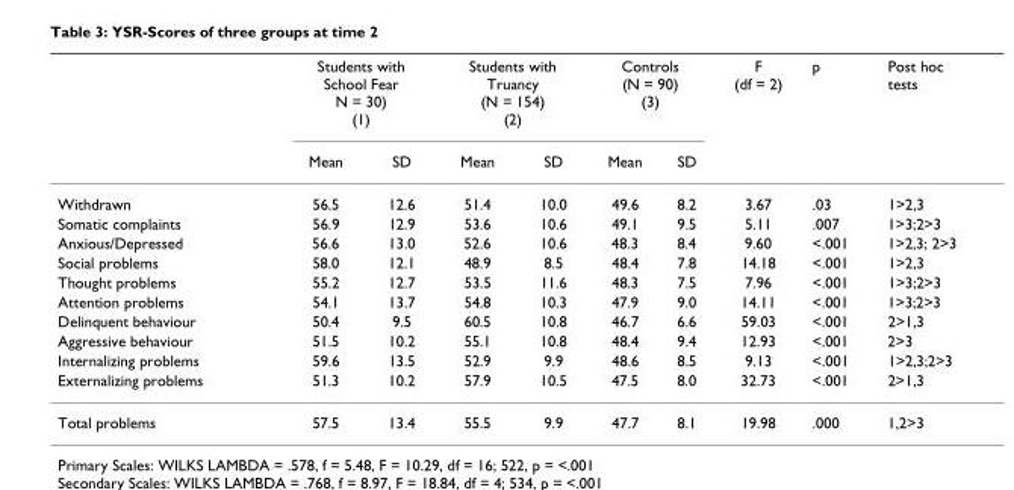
<table><thead><tr><td rowspan="2"></td><td colspan="2">Students with School Fear N = 30) (1)</td><td colspan="2">Students with Truancy (N = 154) (2)</td><td colspan="2">Controls (N = 90) (3)</td><td rowspan="2">F (df = 2)</td><td rowspan="2">p</td><td rowspan="2">Post hoc tests</td></tr><tr><td>Mean</td><td>SD</td><td>Mean</td><td>SD</td><td>Mean</td><td>SD</td></tr></thead><tbody><tr><td>Withdrawn</td><td>56.5</td><td>12.6</td><td>51.4</td><td>10.0</td><td>49.6</td><td>8.2</td><td>3.67</td><td>.03</td><td>1&gt;2,3</td></tr><tr><td>Somatic complaints</td><td>56.9</td><td>12.9</td><td>53.6</td><td>10.6</td><td>49.1</td><td>9.5</td><td>5.11</td><td>.007</td><td>1&gt;3;2&gt;3</td></tr><tr><td>Anxious/Depressed</td><td>56.6</td><td>13.0</td><td>52.6</td><td>10.6</td><td>48.3</td><td>8.4</td><td>9.60</td><td>&lt;.001</td><td>1&gt;2,3; 2&gt;3</td></tr><tr><td>Social problems</td><td>58.0</td><td>12.1</td><td>48.9</td><td>8.5</td><td>48.4</td><td>7.8</td><td>14.18</td><td>&lt;.001</td><td>1&gt;2,3</td></tr><tr><td>Thought problems</td><td>55.2</td><td>12.7</td><td>53.5</td><td>11.6</td><td>48.3</td><td>7.5</td><td>7.96</td><td>&lt;.001</td><td>1&gt;3;2&gt;3</td></tr><tr><td>Attention problems</td><td>54.1</td><td>13.7</td><td>54.8</td><td>10.3</td><td>47.9</td><td>9.0</td><td>14.11</td><td>&lt;.001</td><td>1&gt;3;2&gt;3</td></tr><tr><td>Delinquent behaviour</td><td>50.4</td><td>9.5</td><td>60.5</td><td>10.8</td><td>46.7</td><td>6.6</td><td>59.03</td><td>&lt;.001</td><td>2&gt;1,3</td></tr><tr><td>Aggressive behaviour</td><td>51.5</td><td>10.2</td><td>55.1</td><td>10.8</td><td>48.4</td><td>9.4</td><td>12.93</td><td>&lt;.001</td><td>2&gt;3</td></tr><tr><td>Internalizing problems</td><td>59.6</td><td>13.5</td><td>52.9</td><td>9.9</td><td>48.6</td><td>8.5</td><td>9.13</td><td>&lt;.001</td><td>1&gt;2,3;2&gt;3</td></tr><tr><td>Externalizing problems</td><td>51.3</td><td>10.2</td><td>57.9</td><td>10.5</td><td>47.5</td><td>8.0</td><td>32.73</td><td>&lt;.001</td><td>2&gt;1,3</td></tr><tr><td>Total problems</td><td>57.5</td><td>13.4</td><td>55.5</td><td>9.9</td><td>47.7</td><td>8.1</td><td>19.98</td><td>.000</td><td>1,2&gt;3</td></tr></tbody></table>